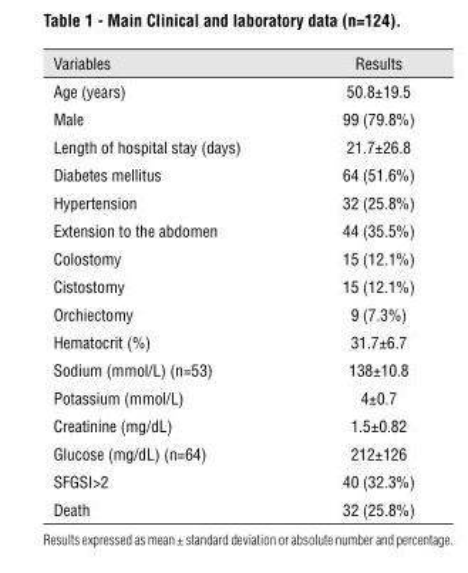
<table><thead><tr><td>Variables</td><td>Results</td></tr></thead><tbody><tr><td>Age (years)</td><td>50.8±19.5</td></tr><tr><td>Male</td><td>99 (79.8%)</td></tr><tr><td>Length of hospital stay (days)</td><td>21.7±26.8</td></tr><tr><td>Diabetes mellitus</td><td>64 (51.6%)</td></tr><tr><td>Hypertension</td><td>32 (25.8%)</td></tr><tr><td>Extension to the abdomen</td><td>44 (35.5%)</td></tr><tr><td>Colostomy</td><td>15 (12.1%)</td></tr><tr><td>Cistostomy</td><td>15 (12.1%)</td></tr><tr><td>Orchiectomy</td><td>9 (7.3%)</td></tr><tr><td>Hematocrit (%)</td><td>31.7±6.7</td></tr><tr><td>Sodium (mmol/L) (n=53)</td><td>138±10.8</td></tr><tr><td>Potassium (mmol/L)</td><td>4±0.7</td></tr><tr><td>Creatinine (mg/dL)</td><td>1.5±0.82</td></tr><tr><td>Glucose (mg/dL) (n=64)</td><td>212±126</td></tr><tr><td>SFGSI&gt;2</td><td>40 (32.3%)</td></tr><tr><td>Death</td><td>32 (25.8%)</td></tr></tbody></table>